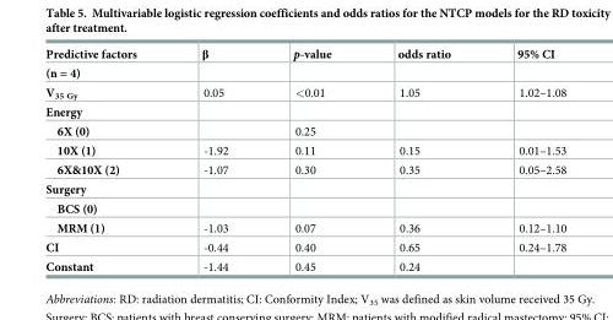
<table><thead><tr><td>Predictive factors</td><td>β</td><td>p-value</td><td>odds ratio</td><td>95% CI</td></tr></thead><tbody><tr><td colspan="5">(n = 4)</td></tr><tr><td>V<sub>35 Gy</sub></td><td>0.05</td><td>&lt;0.01</td><td>1.05</td><td>1.02–1.08</td></tr><tr><td colspan="5">Energy</td></tr><tr><td>6X (0)</td><td></td><td>0.25</td><td></td><td></td></tr><tr><td>10X (1)</td><td>-1.92</td><td>0.11</td><td>0.15</td><td>0.01–1.53</td></tr><tr><td>6X&amp;10X (2)</td><td>-1.07</td><td>0.30</td><td>0.35</td><td>0.05–2.58</td></tr><tr><td colspan="5">Surgery</td></tr><tr><td colspan="5">BCS (0)</td></tr><tr><td>MRM (1)</td><td>-1.03</td><td>0.07</td><td>0.36</td><td>0.12–1.10</td></tr><tr><td>CI</td><td>-0.44</td><td>0.40</td><td>0.65</td><td>0.24–1.78</td></tr><tr><td>Constant</td><td>-1.44</td><td>0.45</td><td>0.24</td><td></td></tr></tbody></table>